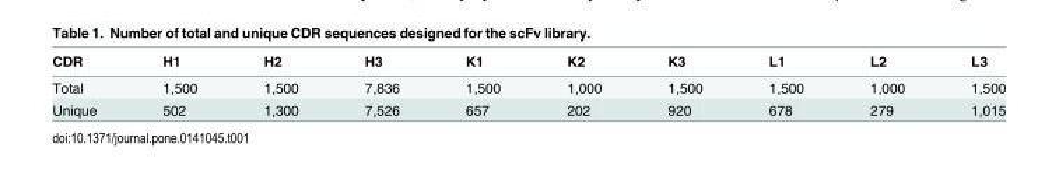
<table><thead><tr><td>CDR</td><td>H1</td><td>H2</td><td>H3</td><td>K1</td><td>K2</td><td>K3</td><td>L1</td><td>L2</td><td>L3</td></tr></thead><tbody><tr><td>Total</td><td>1,500</td><td>1,500</td><td>7,836</td><td>1,500</td><td>1,000</td><td>1,500</td><td>1,500</td><td>1,000</td><td>1,500</td></tr><tr><td>Unique</td><td>502</td><td>1,300</td><td>7,526</td><td>657</td><td>202</td><td>920</td><td>678</td><td>279</td><td>1,015</td></tr></tbody></table>